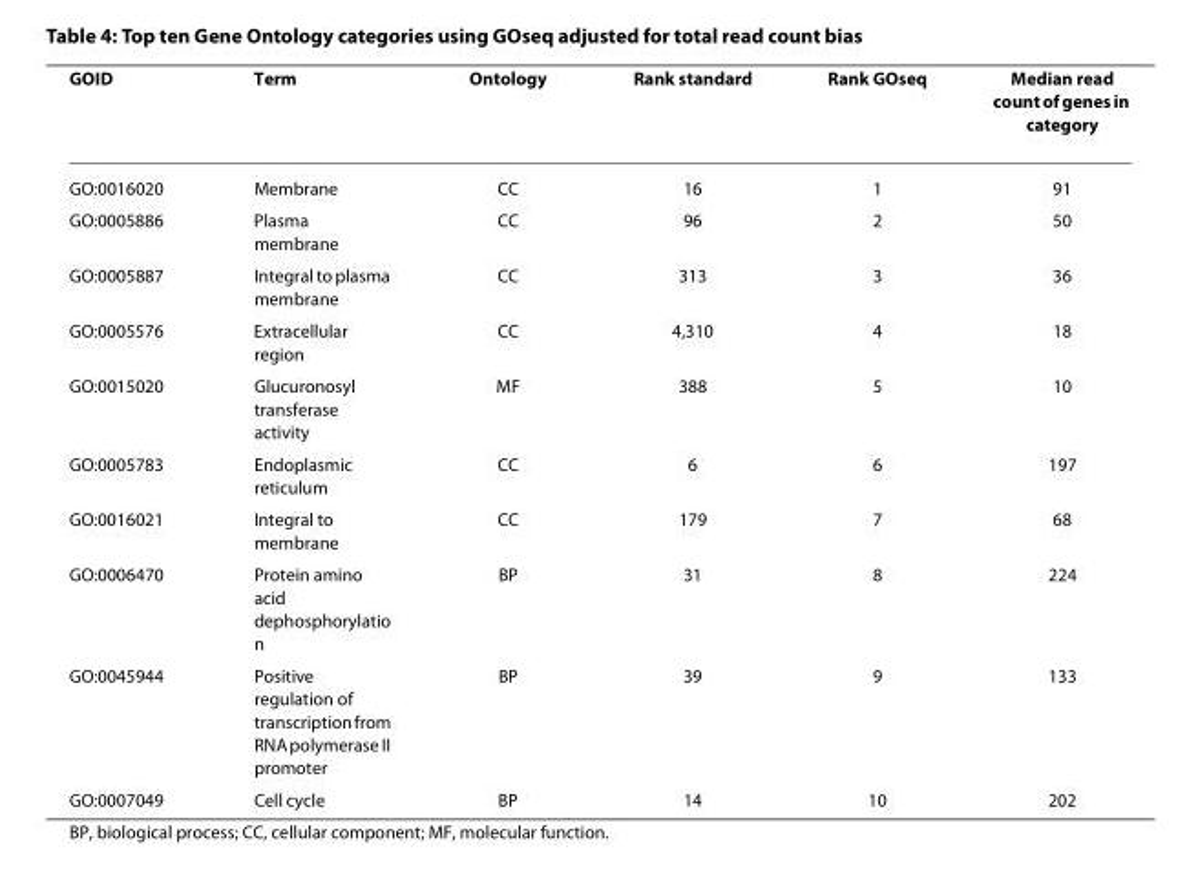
<table><thead><tr><td>GOID</td><td>Term</td><td>Ontology</td><td>Rank standard</td><td>Rank GOseq</td><td>Median read count of genes in category</td></tr></thead><tbody><tr><td>GO:0016020</td><td>Membrane</td><td>CC</td><td>16</td><td>1</td><td>91</td></tr><tr><td>GO:0005886</td><td>Plasma membrane</td><td>CC</td><td>96</td><td>2</td><td>50</td></tr><tr><td>GO:0005887</td><td>Integral to plasma membrane</td><td>CC</td><td>313</td><td>3</td><td>36</td></tr><tr><td>GO:0005576</td><td>Extracellular region</td><td>CC</td><td>4,310</td><td>4</td><td>18</td></tr><tr><td>GO:0015020</td><td>Glucuronosyl transferase activity</td><td>MF</td><td>388</td><td>5</td><td>10</td></tr><tr><td>GO:0005783</td><td>Endoplasmic reticulum</td><td>CC</td><td>6</td><td>6</td><td>197</td></tr><tr><td>GO:0016021</td><td>Integral to membrane</td><td>CC</td><td>179</td><td>7</td><td>68</td></tr><tr><td>GO:0006470</td><td>Protein amino acid dephosphorylatio n</td><td>BP</td><td>31</td><td>8</td><td>224</td></tr><tr><td>GO:0045944</td><td>Positive regulation of transcription from RNA polymerase II promoter</td><td>BP</td><td>39</td><td>9</td><td>133</td></tr><tr><td>GO:0007049</td><td>Cell cycle</td><td>BP</td><td>14</td><td>10</td><td>202</td></tr></tbody></table>